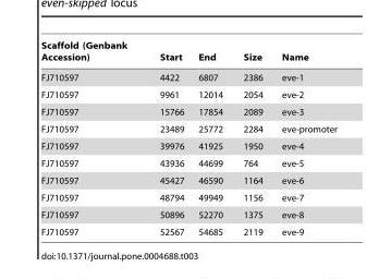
<table><thead><tr><td>Scaffold (Genbank Accession)</td><td>Start</td><td>End</td><td>Size</td><td>Name</td></tr></thead><tbody><tr><td>FJ710597</td><td>4422</td><td>6807</td><td>2386</td><td>eve-1</td></tr><tr><td>FJ710597</td><td>9961</td><td>12014</td><td>2054</td><td>eve-2</td></tr><tr><td>FJ710597</td><td>15766</td><td>17854</td><td>2089</td><td>eve-3</td></tr><tr><td>FJ710597</td><td>23489</td><td>25772</td><td>2284</td><td>eve-promoter</td></tr><tr><td>FJ710597</td><td>39976</td><td>41925</td><td>1950</td><td>eve-4</td></tr><tr><td>FJ710597</td><td>43936</td><td>44699</td><td>764</td><td>eve-5</td></tr><tr><td>FJ710597</td><td>45427</td><td>46590</td><td>1164</td><td>eve-6</td></tr><tr><td>FJ710597</td><td>48794</td><td>49949</td><td>1156</td><td>eve-7</td></tr><tr><td>FJ710597</td><td>50896</td><td>52270</td><td>1375</td><td>eve-8</td></tr><tr><td>FJ710597</td><td>52567</td><td>54685</td><td>2119</td><td>eve-9</td></tr></tbody></table>